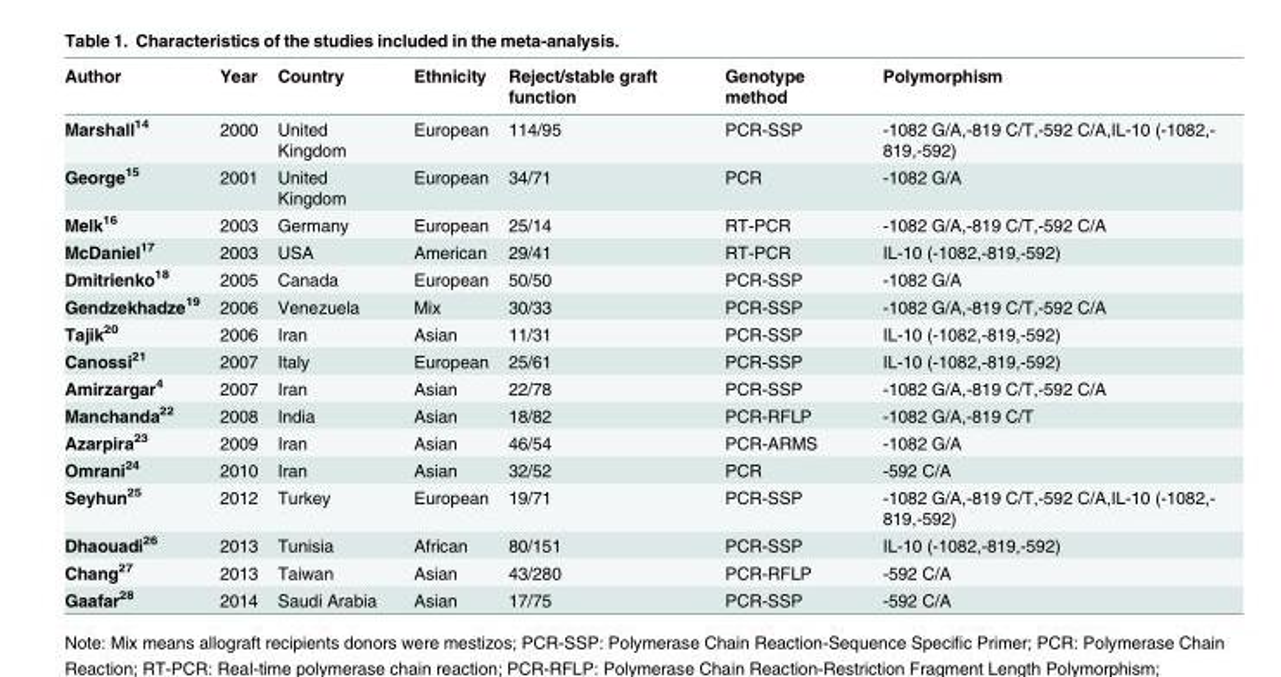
<table><thead><tr><td>Author</td><td>Year</td><td>Country</td><td>Ethnicity</td><td>Reject/stable graft function</td><td>Genotype method</td><td>Polymorphism</td></tr></thead><tbody><tr><td>Marshall<sup>14</sup></td><td>2000</td><td>United Kingdom</td><td>European</td><td>114/95</td><td>PCR-SSP</td><td>-1082 G/A,-819 C/T,-592 C/A,IL-10 (-1082,- 819,-592)</td></tr><tr><td>George<sup>15</sup></td><td>2001</td><td>United Kingdom</td><td>European</td><td>34/71</td><td>PCR</td><td>-1082 G/A</td></tr><tr><td>Melk<sup>16</sup></td><td>2003</td><td>Germany</td><td>European</td><td>25/14</td><td>RT-PCR</td><td>-1082 G/A,-819 C/T,-592 C/A</td></tr><tr><td>McDaniel<sup>17</sup></td><td>2003</td><td>USA</td><td>American</td><td>29/41</td><td>RT-PCR</td><td>IL-10 (-1082,-819,-592)</td></tr><tr><td>Dmitrienko<sup>18</sup></td><td>2005</td><td>Canada</td><td>European</td><td>50/50</td><td>PCR-SSP</td><td>-1082 G/A</td></tr><tr><td>Gendzekhadze<sup>19</sup></td><td>2006</td><td>Venezuela</td><td>Mix</td><td>30/33</td><td>PCR-SSP</td><td>-1082 G/A,-819 C/T,-592 C/A</td></tr><tr><td>Tajik<sup>20</sup></td><td>2006</td><td>Iran</td><td>Asian</td><td>11/31</td><td>PCR-SSP</td><td>IL-10 (-1082,-819,-592)</td></tr><tr><td>Canossi<sup>21</sup></td><td>2007</td><td>Italy</td><td>European</td><td>25/61</td><td>PCR-SSP</td><td>IL-10 (-1082,-819,-592)</td></tr><tr><td>Amirzargar<sup>4</sup></td><td>2007</td><td>Iran</td><td>Asian</td><td>22/78</td><td>PCR-SSP</td><td>-1082 G/A,-819 C/T,-592 C/A</td></tr><tr><td>Manchanda<sup>22</sup></td><td>2008</td><td>India</td><td>Asian</td><td>18/82</td><td>PCR-RFLP</td><td>-1082 G/A,-819 C/T</td></tr><tr><td>Azarpira<sup>23</sup></td><td>2009</td><td>Iran</td><td>Asian</td><td>46/54</td><td>PCR-ARMS</td><td>-1082 G/A</td></tr><tr><td>Omrani<sup>24</sup></td><td>2010</td><td>Iran</td><td>Asian</td><td>32/52</td><td>PCR</td><td>-592 C/A</td></tr><tr><td>Seyhun<sup>25</sup></td><td>2012</td><td>Turkey</td><td>European</td><td>19/71</td><td>PCR-SSP</td><td>-1082 G/A,-819 C/T,-592 C/A,IL-10 (-1082,- 819,-592)</td></tr><tr><td>Dhaouadi<sup>26</sup></td><td>2013</td><td>Tunisia</td><td>African</td><td>80/151</td><td>PCR-SSP</td><td>IL-10 (-1082,-819,-592)</td></tr><tr><td>Chang<sup>27</sup></td><td>2013</td><td>Taiwan</td><td>Asian</td><td>43/280</td><td>PCR-RFLP</td><td>-592 C/A</td></tr><tr><td>Gaafar<sup>28</sup></td><td>2014</td><td>Saudi Arabia</td><td>Asian</td><td>17/75</td><td>PCR-SSP</td><td>-592 C/A</td></tr></tbody></table>